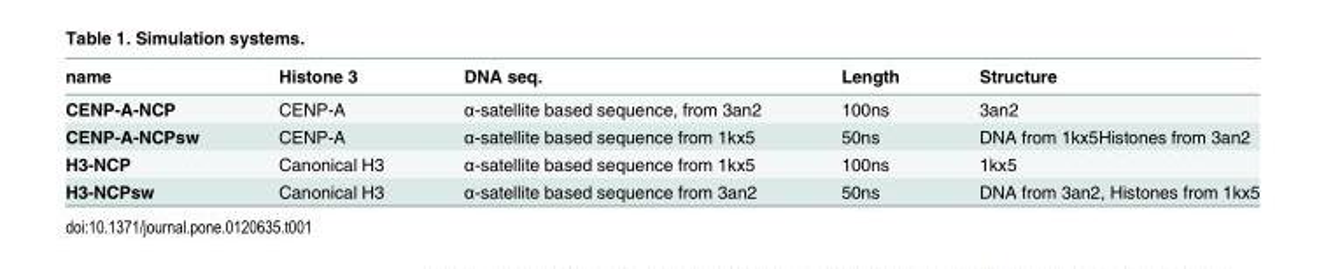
<table><thead><tr><td>name</td><td>Histone 3</td><td>DNA seq.</td><td>Length</td><td>Structure</td></tr></thead><tbody><tr><td>CENP-A-NCP</td><td>CENP-A</td><td>α-satellite based sequence, from 3an2</td><td>100ns</td><td>3an2</td></tr><tr><td>CENP-A-NCPsw</td><td>CENP-A</td><td>α-satellite based sequence from 1kx5</td><td>50ns</td><td>DNA from 1kx5Histones from 3an2</td></tr><tr><td>H3-NCP</td><td>Canonical H3</td><td>α-satellite based sequence from 1kx5</td><td>100ns</td><td>1kx5</td></tr><tr><td>H3-NCPsw</td><td>Canonical H3</td><td>α-satellite based sequence from 3an2</td><td>50ns</td><td>DNA from 3an2, Histones from 1kx5</td></tr></tbody></table>